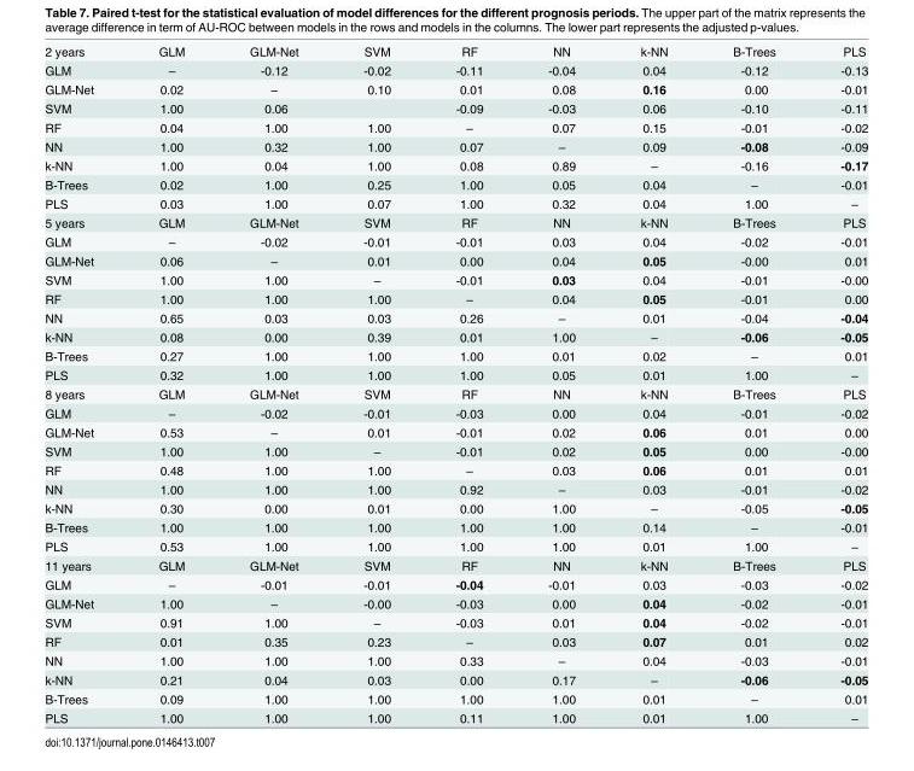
<table><tbody><tr><td>2 years</td><td>GLM</td><td>GLM-Net</td><td>SVM</td><td>RF</td><td>NN</td><td>k-NN</td><td>B-Trees</td><td>PLS</td></tr><tr><td>GLM</td><td>–</td><td>-0.12</td><td>-0.02</td><td>-0.11</td><td>-0.04</td><td>0.04</td><td>-0.12</td><td>-0.13</td></tr><tr><td>GLM-Net</td><td>0.02</td><td>–</td><td>0.10</td><td>0.01</td><td>0.08</td><td>0.16</td><td>0.00</td><td>-0.01</td></tr><tr><td>SVM</td><td>1.00</td><td>0.06</td><td></td><td>-0.09</td><td>-0.03</td><td>0.06</td><td>-0.10</td><td>-0.11</td></tr><tr><td>RF</td><td>0.04</td><td>1.00</td><td>1.00</td><td>–</td><td>0.07</td><td>0.15</td><td>-0.01</td><td>-0.02</td></tr><tr><td>NN</td><td>1.00</td><td>0.32</td><td>1.00</td><td>0.07</td><td>–</td><td>0.09</td><td>-0.08</td><td>-0.09</td></tr><tr><td>k-NN</td><td>1.00</td><td>0.04</td><td>1.00</td><td>0.08</td><td>0.89</td><td>–</td><td>-0.16</td><td>-0.17</td></tr><tr><td>B-Trees</td><td>0.02</td><td>1.00</td><td>0.25</td><td>1.00</td><td>0.05</td><td>0.04</td><td>–</td><td>-0.01</td></tr><tr><td>PLS</td><td>0.03</td><td>1.00</td><td>0.07</td><td>1.00</td><td>0.32</td><td>0.04</td><td>1.00</td><td>–</td></tr><tr><td>5 years</td><td>GLM</td><td>GLM-Net</td><td>SVM</td><td>RF</td><td>NN</td><td>k-NN</td><td>B-Trees</td><td>PLS</td></tr><tr><td>GLM</td><td>–</td><td>-0.02</td><td>-0.01</td><td>-0.01</td><td>0.03</td><td>0.04</td><td>-0.02</td><td>-0.01</td></tr><tr><td>GLM-Net</td><td>0.06</td><td>–</td><td>0.01</td><td>0.00</td><td>0.04</td><td>0.05</td><td>-0.00</td><td>0.01</td></tr><tr><td>SVM</td><td>1.00</td><td>1.00</td><td>–</td><td>-0.01</td><td>0.03</td><td>0.04</td><td>-0.01</td><td>-0.00</td></tr><tr><td>RF</td><td>1.00</td><td>1.00</td><td>1.00</td><td>–</td><td>0.04</td><td>0.05</td><td>-0.01</td><td>0.00</td></tr><tr><td>NN</td><td>0.65</td><td>0.03</td><td>0.03</td><td>0.26</td><td>–</td><td>0.01</td><td>-0.04</td><td>-0.04</td></tr><tr><td>k-NN</td><td>0.08</td><td>0.00</td><td>0.39</td><td>0.01</td><td>1.00</td><td>–</td><td>-0.06</td><td>-0.05</td></tr><tr><td>B-Trees</td><td>0.27</td><td>1.00</td><td>1.00</td><td>1.00</td><td>0.01</td><td>0.02</td><td>–</td><td>0.01</td></tr><tr><td>PLS</td><td>0.32</td><td>1.00</td><td>1.00</td><td>1.00</td><td>0.05</td><td>0.01</td><td>1.00</td><td>–</td></tr><tr><td>8 years</td><td>GLM</td><td>GLM-Net</td><td>SVM</td><td>RF</td><td>NN</td><td>k-NN</td><td>B-Trees</td><td>PLS</td></tr><tr><td>GLM</td><td>–</td><td>-0.02</td><td>-0.01</td><td>-0.03</td><td>0.00</td><td>0.04</td><td>-0.01</td><td>-0.02</td></tr><tr><td>GLM-Net</td><td>0.53</td><td>–</td><td>0.01</td><td>-0.01</td><td>0.02</td><td>0.06</td><td>0.01</td><td>0.00</td></tr><tr><td>SVM</td><td>1.00</td><td>1.00</td><td>–</td><td>-0.01</td><td>0.02</td><td>0.05</td><td>0.00</td><td>-0.00</td></tr><tr><td>RF</td><td>0.48</td><td>1.00</td><td>1.00</td><td>–</td><td>0.03</td><td>0.06</td><td>0.01</td><td>0.01</td></tr><tr><td>NN</td><td>1.00</td><td>1.00</td><td>1.00</td><td>0.92</td><td>–</td><td>0.03</td><td>-0.01</td><td>-0.02</td></tr><tr><td>k-NN</td><td>0.30</td><td>0.00</td><td>0.01</td><td>0.00</td><td>1.00</td><td>–</td><td>-0.05</td><td>-0.05</td></tr><tr><td>B-Trees</td><td>1.00</td><td>1.00</td><td>1.00</td><td>1.00</td><td>1.00</td><td>0.14</td><td>–</td><td>-0.01</td></tr><tr><td>PLS</td><td>0.53</td><td>1.00</td><td>1.00</td><td>1.00</td><td>1.00</td><td>0.01</td><td>1.00</td><td>–</td></tr><tr><td>11 years</td><td>GLM</td><td>GLM-Net</td><td>SVM</td><td>RF</td><td>NN</td><td>k-NN</td><td>B-Trees</td><td>PLS</td></tr><tr><td>GLM</td><td>–</td><td>-0.01</td><td>-0.01</td><td>-0.04</td><td>-0.01</td><td>0.03</td><td>-0.03</td><td>-0.02</td></tr><tr><td>GLM-Net</td><td>1.00</td><td>–</td><td>-0.00</td><td>-0.03</td><td>0.00</td><td>0.04</td><td>-0.02</td><td>-0.01</td></tr><tr><td>SVM</td><td>0.91</td><td>1.00</td><td>–</td><td>-0.03</td><td>0.01</td><td>0.04</td><td>-0.02</td><td>-0.01</td></tr><tr><td>RF</td><td>0.01</td><td>0.35</td><td>0.23</td><td>–</td><td>0.03</td><td>0.07</td><td>0.01</td><td>0.02</td></tr><tr><td>NN</td><td>1.00</td><td>1.00</td><td>1.00</td><td>0.33</td><td>–</td><td>0.04</td><td>-0.03</td><td>-0.01</td></tr><tr><td>k-NN</td><td>0.21</td><td>0.04</td><td>0.03</td><td>0.00</td><td>0.17</td><td>–</td><td>-0.06</td><td>-0.05</td></tr><tr><td>B-Trees</td><td>0.09</td><td>1.00</td><td>1.00</td><td>1.00</td><td>1.00</td><td>0.01</td><td>–</td><td>0.01</td></tr><tr><td>PLS</td><td>1.00</td><td>1.00</td><td>1.00</td><td>0.11</td><td>1.00</td><td>0.01</td><td>1.00</td><td>–</td></tr></tbody></table>